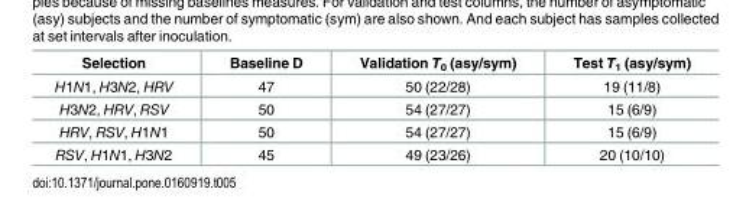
<table><thead><tr><td>Selection</td><td>Baseline D</td><td>Validation T<sub>0</sub> (asy/sym)</td><td>Test T<sub>1</sub> (asy/sym)</td></tr></thead><tbody><tr><td>H1N1, H3N2, HRV</td><td>47</td><td>50 (22/28)</td><td>19 (11/8)</td></tr><tr><td>H3N2, HRV, RSV</td><td>50</td><td>54 (27/27)</td><td>15 (6/9)</td></tr><tr><td>HRV, RSV, H1N1</td><td>50</td><td>54 (27/27)</td><td>15 (6/9)</td></tr><tr><td>RSV, H1N1, H3N2</td><td>45</td><td>49 (23/26)</td><td>20 (10/10)</td></tr></tbody></table>